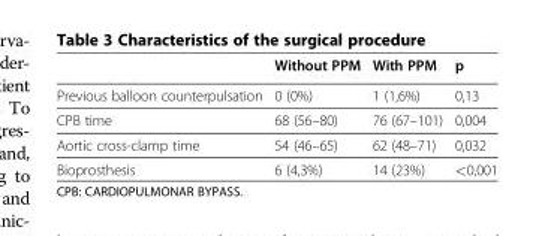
<table><thead><tr><td></td><td>Without PPM</td><td>With PPM</td><td>p</td></tr></thead><tbody><tr><td>Previous balloon counterpulsation</td><td>0 (0%)</td><td>1 (1,6%)</td><td>0,13</td></tr><tr><td>CPB time</td><td>68 (56–80)</td><td>76 (67–101)</td><td>0,004</td></tr><tr><td>Aortic cross-clamp time</td><td>54 (46–65)</td><td>62 (48–71)</td><td>0,032</td></tr><tr><td>Bioprosthesis</td><td>6 (4,3%)</td><td>14 (23%)</td><td>&lt;0,001</td></tr></tbody></table>